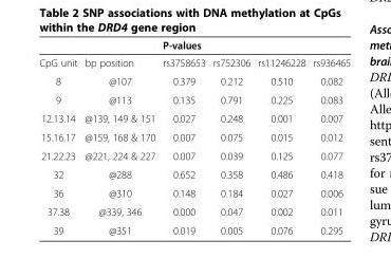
<table><thead><tr><td rowspan="2">CpG unit</td><td rowspan="2">bp position</td><td colspan="4">P-values</td></tr><tr><td>rs3758653</td><td>rs752306</td><td>rs11246228</td><td>rs936465</td></tr></thead><tbody><tr><td>8</td><td>@107</td><td>0.379</td><td>0.212</td><td>0.510</td><td>0.082</td></tr><tr><td>9</td><td>@113</td><td>0.135</td><td>0.791</td><td>0.225</td><td>0.083</td></tr><tr><td>12.13.14</td><td>@139, 149 &amp; 151</td><td>0.027</td><td>0.248</td><td>0.001</td><td>0.007</td></tr><tr><td>15.16.17</td><td>@159, 168 &amp; 170</td><td>0.007</td><td>0.075</td><td>0.015</td><td>0.012</td></tr><tr><td>21.22.23</td><td>@221, 224 &amp; 227</td><td>0.007</td><td>0.039</td><td>0.125</td><td>0.077</td></tr><tr><td>32</td><td>@288</td><td>0.652</td><td>0.358</td><td>0.486</td><td>0.418</td></tr><tr><td>36</td><td>@310</td><td>0.148</td><td>0.184</td><td>0.027</td><td>0.006</td></tr><tr><td>37.38</td><td>@339, 346</td><td>0.000</td><td>0.047</td><td>0.002</td><td>0.011</td></tr><tr><td>39</td><td>@351</td><td>0.019</td><td>0.005</td><td>0.076</td><td>0.295</td></tr></tbody></table>